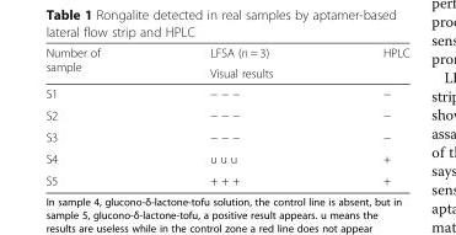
<table><thead><tr><td rowspan="2">Number of sample</td><td rowspan="2">LFSA (n = 3) Visual results</td><td rowspan="2">HPLC</td></tr><tr></tr></thead><tbody><tr><td>S1</td><td>− − −</td><td>−</td></tr><tr><td>S2</td><td>− − −</td><td>−</td></tr><tr><td>S3</td><td>− − −</td><td>−</td></tr><tr><td>S4</td><td>u u u</td><td>+</td></tr><tr><td>S5</td><td>+ + +</td><td>+</td></tr></tbody></table>